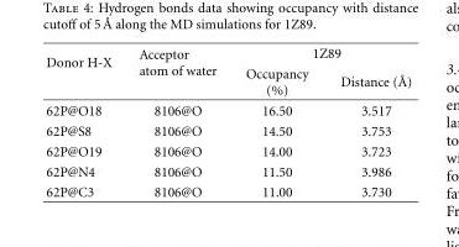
<table><thead><tr><td rowspan="2">Donor H-X</td><td rowspan="2">Acceptor atom of water</td><td colspan="2">1Z89</td></tr><tr><td>Occupancy (%)</td><td>Distance ( ˚A)</td></tr></thead><tbody><tr><td>62P@O18</td><td>8106@O</td><td>16.50</td><td>3.517</td></tr><tr><td>62P@S8</td><td>8106@O</td><td>14.50</td><td>3.753</td></tr><tr><td>62P@O19</td><td>8106@O</td><td>14.00</td><td>3.723</td></tr><tr><td>62P@N4</td><td>8106@O</td><td>11.50</td><td>3.986</td></tr><tr><td>62P@C3</td><td>8106@O</td><td>11.00</td><td>3.730</td></tr></tbody></table>